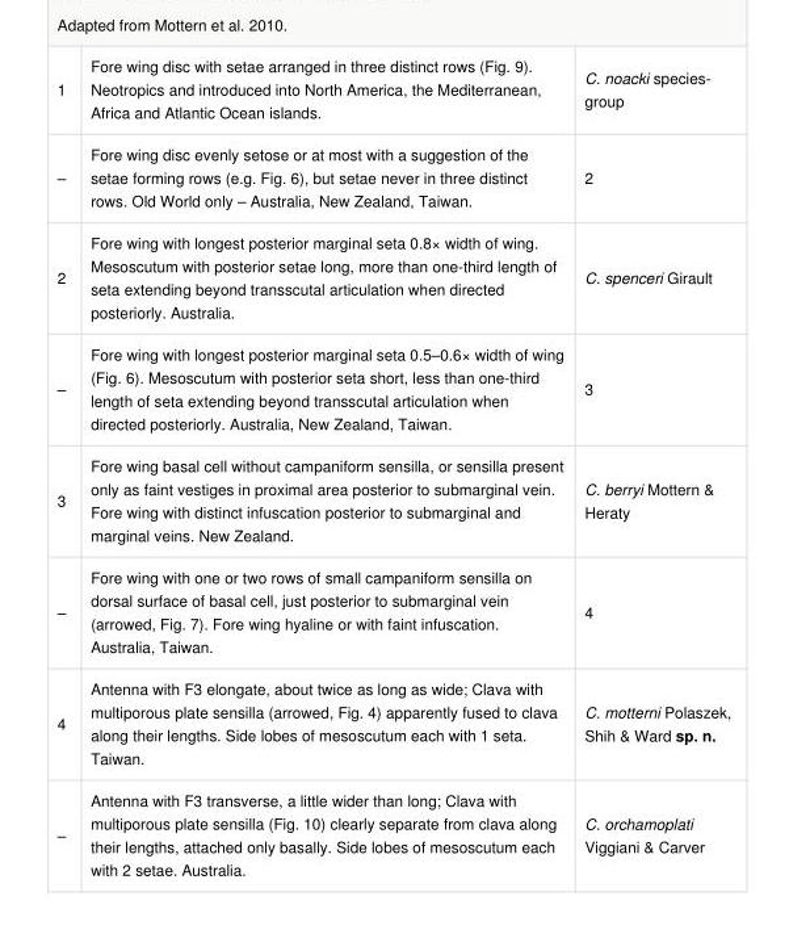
<table><tbody><tr><td>1</td><td>Fore wing disc with setae arranged in three distinct rows (Fig. 9). Neotropics and introduced into North America, the Mediterranean, Africa and Atlantic Ocean islands.</td><td>C. noacki species- group</td></tr><tr><td>–</td><td>Fore wing disc evenly setose or at most with a suggestion of the setae forming rows (e.g. Fig. 6), but setae never in three distinct rows. Old World only – Australia, New Zealand, Taiwan.</td><td>2</td></tr><tr><td>2</td><td>Fore wing with longest posterior marginal seta 0.8× width of wing. Mesoscutum with posterior setae long, more than one-third length of seta extending beyond transscutal articulation when directed posteriorly. Australia.</td><td>C. spenceri Girault</td></tr><tr><td>–</td><td>Fore wing with longest posterior marginal seta 0.5–0.6× width of wing (Fig. 6). Mesoscutum with posterior seta short, less than one-third length of seta extending beyond transscutal articulation when directed posteriorly. Australia, New Zealand, Taiwan.</td><td>3</td></tr><tr><td>3</td><td>Fore wing basal cell without campaniform sensilla, or sensilla present only as faint vestiges in proximal area posterior to submarginal vein. Fore wing with distinct infuscation posterior to submarginal and marginal veins. New Zealand.</td><td>C. berryi Mottern &amp; Heraty</td></tr><tr><td>–</td><td>Fore wing with one or two rows of small campaniform sensilla on dorsal surface of basal cell, just posterior to submarginal vein (arrowed, Fig. 7). Fore wing hyaline or with faint infuscation. Australia, Taiwan.</td><td>4</td></tr><tr><td>4</td><td>Antenna with F3 elongate, about twice as long as wide; Clava with multiporous plate sensilla (arrowed, Fig. 4) apparently fused to clava along their lengths. Side lobes of mesoscutum each with 1 seta. Taiwan.</td><td>C. motterni Polaszek, Shih &amp; Ward sp. n.</td></tr><tr><td>–</td><td>Antenna with F3 transverse, a little wider than long; Clava with multiporous plate sensilla (Fig. 10) clearly separate from clava along their lengths, attached only basally. Side lobes of mesoscutum each with 2 setae. Australia.</td><td>C. orchamoplati Viggiani &amp; Carver</td></tr></tbody></table>